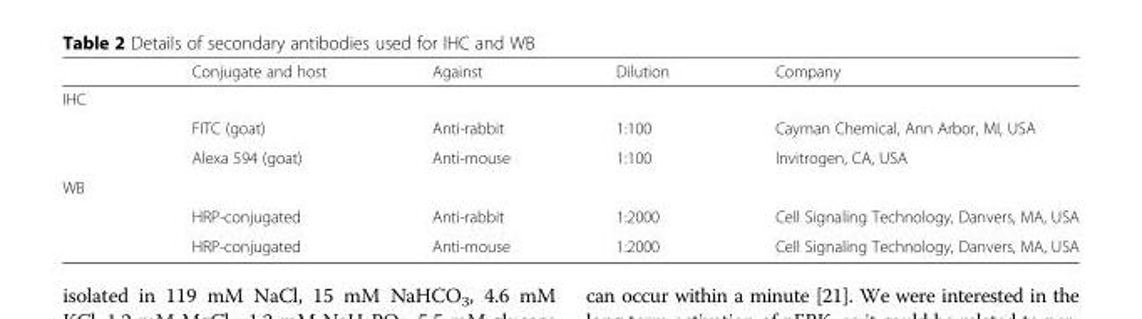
<table><thead><tr><td></td><td>Conjugate and host</td><td>Against</td><td>Dilution</td><td>Company</td></tr></thead><tbody><tr><td colspan="5">IHC</td></tr><tr><td></td><td>FITC (goat)</td><td>Anti-rabbit</td><td>1:100</td><td>Cayman Chemical, Ann Arbor, MI, USA</td></tr><tr><td></td><td>Alexa 594 (goat)</td><td>Anti-mouse</td><td>1:100</td><td>Invitrogen, CA, USA</td></tr><tr><td colspan="5">WB</td></tr><tr><td></td><td>HRP-conjugated</td><td>Anti-rabbit</td><td>1:2000</td><td>Cell Signaling Technology, Danvers, MA, USA</td></tr><tr><td></td><td>HRP-conjugated</td><td>Anti-mouse</td><td>1:2000</td><td>Cell Signaling Technology, Danvers, MA, USA</td></tr></tbody></table>